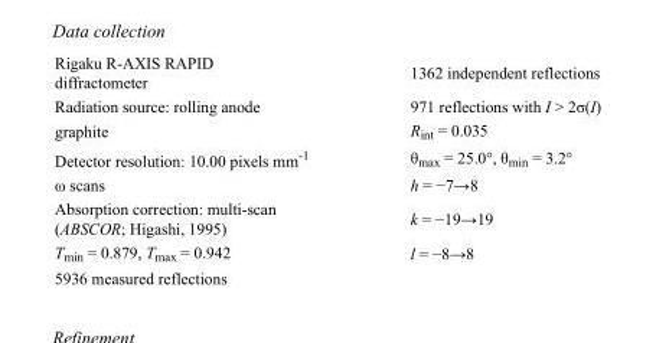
<table><tbody><tr><td>Rigaku R-AXIS RAPID diffractometer</td><td>1362 independent reflections</td></tr><tr><td>Radiation source: rolling anode</td><td>971 reflections with I &gt; 2σ(I)</td></tr><tr><td>graphite</td><td>R<sub>int</sub> = 0.035</td></tr><tr><td>Detector resolution: 10.00 pixels mm<sup>-1</sup></td><td>θ<sub>max</sub> = 25.0°, θ<sub>min</sub> = 3.2°</td></tr><tr><td>ω scans</td><td>h = −7→8</td></tr><tr><td>Absorption correction: multi-scan (ABSCOR; Higashi, 1995)</td><td>k = −19→19</td></tr><tr><td>T<sub>min</sub> = 0.879, T<sub>max</sub> = 0.942</td><td>l = −8→8</td></tr><tr><td>5936 measured reflections</td><td></td></tr></tbody></table>